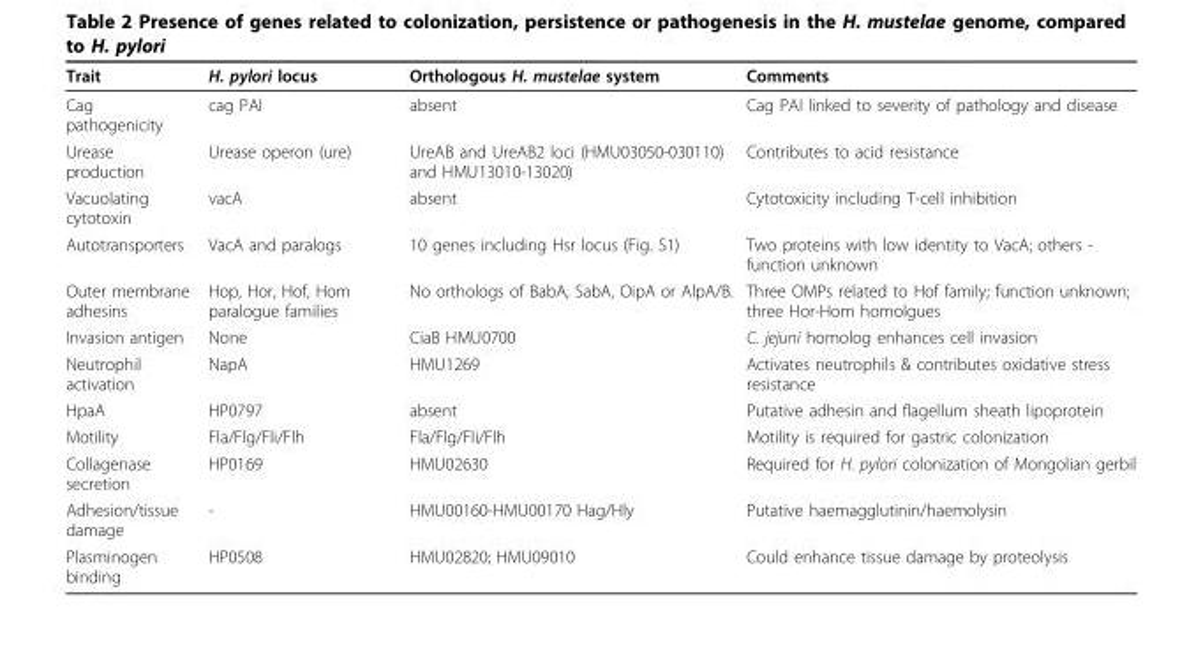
<table><thead><tr><td>Trait</td><td>H. pylori locus</td><td>Orthologous H. mustelae system</td><td>Comments</td></tr></thead><tbody><tr><td>Cag pathogenicity</td><td>cag PAI</td><td>absent</td><td>Cag PAI linked to severity of pathology and disease</td></tr><tr><td>Urease production</td><td>Urease operon (ure)</td><td>UreAB and UreAB2 loci (HMU03050-030110) and HMU13010-13020)</td><td>Contributes to acid resistance</td></tr><tr><td>Vacuolating cytotoxin</td><td>vacA</td><td>absent</td><td>Cytotoxicity including T-cell inhibition</td></tr><tr><td>Autotransporters</td><td>VacA and paralogs</td><td>10 genes including Hsr locus (Fig. S1)</td><td>Two proteins with low identity to VacA; others - function unknown</td></tr><tr><td>Outer membrane adhesins</td><td>Hop, Hor, Hof, Hom paralogue families</td><td>No orthologs of BabA, SabA, OipA or AlpA/B.</td><td>Three OMPs related to Hof family; function unknown; three Hor-Hom homolgues</td></tr><tr><td>Invasion antigen</td><td>None</td><td>CiaB HMU0700</td><td>C. jejuni homolog enhances cell invasion</td></tr><tr><td>Neutrophil activation</td><td>NapA</td><td>HMU1269</td><td>Activates neutrophils &amp; contributes oxidative stress resistance</td></tr><tr><td>HpaA</td><td>HP0797</td><td>absent</td><td>Putative adhesin and flagellum sheath lipoprotein</td></tr><tr><td>Motility</td><td>Fla/Flg/Fli/Flh</td><td>Fla/Flg/Fli/Flh</td><td>Motility is required for gastric colonization</td></tr><tr><td>Collagenase secretion</td><td>HP0169</td><td>HMU02630</td><td>Required for H. pylori colonization of Mongolian gerbil</td></tr><tr><td>Adhesion/tissue damage</td><td>-</td><td>HMU00160-HMU00170 Hag/Hly</td><td>Putative haemagglutinin/haemolysin</td></tr><tr><td>Plasminogen binding</td><td>HP0508</td><td>HMU02820; HMU09010</td><td>Could enhance tissue damage by proteolysis</td></tr></tbody></table>